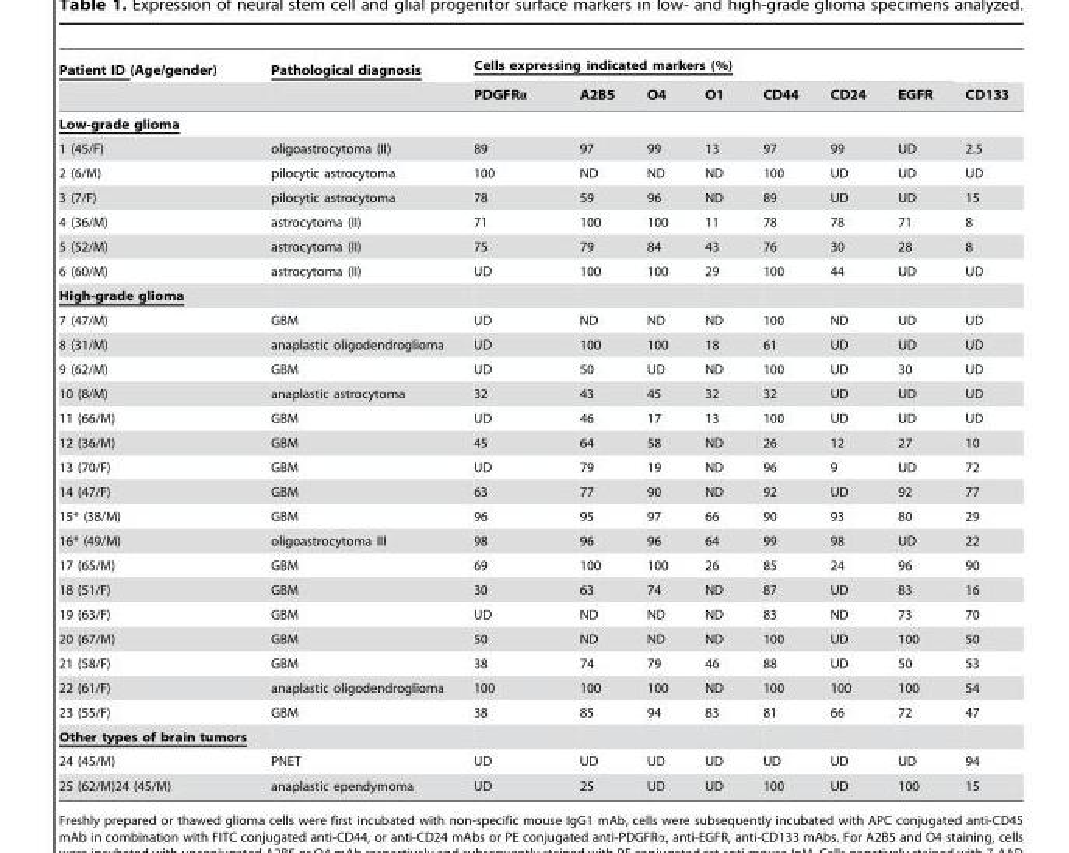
<table><thead><tr><td rowspan="2">Patient ID (Age/gender)</td><td rowspan="2">Pathological diagnosis</td><td colspan="7">Cells expressing indicated markers (%)</td><td rowspan="2">CD133</td></tr><tr><td>PDGFRα</td><td>A2B5</td><td>O4</td><td>O1</td><td>CD44</td><td>CD24</td><td>EGFR</td></tr></thead><tbody><tr><td colspan="10">Low-grade glioma</td></tr><tr><td>1 (45/F)</td><td>oligoastrocytoma (II)</td><td>89</td><td>97</td><td>99</td><td>13</td><td>97</td><td>99</td><td>UD</td><td>2.5</td></tr><tr><td>2 (6/M)</td><td>pilocytic astrocytoma</td><td>100</td><td>ND</td><td>ND</td><td>ND</td><td>100</td><td>UD</td><td>UD</td><td>UD</td></tr><tr><td>3 (7/F)</td><td>pilocytic astrocytoma</td><td>78</td><td>59</td><td>96</td><td>ND</td><td>89</td><td>UD</td><td>UD</td><td>15</td></tr><tr><td>4 (36/M)</td><td>astrocytoma (II)</td><td>71</td><td>100</td><td>100</td><td>11</td><td>78</td><td>78</td><td>71</td><td>8</td></tr><tr><td>5 (52/M)</td><td>astrocytoma (II)</td><td>75</td><td>79</td><td>84</td><td>43</td><td>76</td><td>30</td><td>28</td><td>8</td></tr><tr><td>6 (60/M)</td><td>astrocytoma (II)</td><td>UD</td><td>100</td><td>100</td><td>29</td><td>100</td><td>44</td><td>UD</td><td>UD</td></tr><tr><td colspan="10">High-grade glioma</td></tr><tr><td>7 (47/M)</td><td>GBM</td><td>UD</td><td>ND</td><td>ND</td><td>ND</td><td>100</td><td>ND</td><td>UD</td><td>UD</td></tr><tr><td>8 (31/M)</td><td>anaplastic oligodendroglioma</td><td>UD</td><td>100</td><td>100</td><td>18</td><td>61</td><td>UD</td><td>UD</td><td>UD</td></tr><tr><td>9 (62/M)</td><td>GBM</td><td>UD</td><td>50</td><td>UD</td><td>ND</td><td>100</td><td>UD</td><td>30</td><td>UD</td></tr><tr><td>10 (8/M)</td><td>anaplastic astrocytoma</td><td>32</td><td>43</td><td>45</td><td>32</td><td>32</td><td>UD</td><td>UD</td><td>UD</td></tr><tr><td>11 (66/M)</td><td>GBM</td><td>UD</td><td>46</td><td>17</td><td>13</td><td>100</td><td>UD</td><td>UD</td><td>UD</td></tr><tr><td>12 (36/M)</td><td>GBM</td><td>45</td><td>64</td><td>58</td><td>ND</td><td>26</td><td>12</td><td>27</td><td>10</td></tr><tr><td>13 (70/F)</td><td>GBM</td><td>UD</td><td>79</td><td>19</td><td>ND</td><td>96</td><td>9</td><td>UD</td><td>72</td></tr><tr><td>14 (47/F)</td><td>GBM</td><td>63</td><td>77</td><td>90</td><td>ND</td><td>92</td><td>UD</td><td>92</td><td>77</td></tr><tr><td>15* (38/M)</td><td>GBM</td><td>96</td><td>95</td><td>97</td><td>66</td><td>90</td><td>93</td><td>80</td><td>29</td></tr><tr><td>16* (49/M)</td><td>oligoastrocytoma III</td><td>98</td><td>96</td><td>96</td><td>64</td><td>99</td><td>98</td><td>UD</td><td>22</td></tr><tr><td>17 (65/M)</td><td>GBM</td><td>69</td><td>100</td><td>100</td><td>26</td><td>85</td><td>24</td><td>96</td><td>90</td></tr><tr><td>18 (51/F)</td><td>GBM</td><td>30</td><td>63</td><td>74</td><td>ND</td><td>87</td><td>UD</td><td>83</td><td>16</td></tr><tr><td>19 (63/F)</td><td>GBM</td><td>UD</td><td>ND</td><td>ND</td><td>ND</td><td>83</td><td>ND</td><td>73</td><td>70</td></tr><tr><td>20 (67/M)</td><td>GBM</td><td>50</td><td>ND</td><td>ND</td><td>ND</td><td>100</td><td>UD</td><td>100</td><td>50</td></tr><tr><td>21 (58/F)</td><td>GBM</td><td>38</td><td>74</td><td>79</td><td>46</td><td>88</td><td>UD</td><td>50</td><td>53</td></tr><tr><td>22 (61/F)</td><td>anaplastic oligodendroglioma</td><td>100</td><td>100</td><td>100</td><td>ND</td><td>100</td><td>100</td><td>100</td><td>54</td></tr><tr><td>23 (55/F)</td><td>GBM</td><td>38</td><td>85</td><td>94</td><td>83</td><td>81</td><td>66</td><td>72</td><td>47</td></tr><tr><td colspan="10">Other types of brain tumors</td></tr><tr><td>24 (45/M)</td><td>PNET</td><td>UD</td><td>UD</td><td>UD</td><td>UD</td><td>UD</td><td>UD</td><td>UD</td><td>94</td></tr><tr><td>25 (62/M)24 (45/M)</td><td>anaplastic ependymoma</td><td>UD</td><td>25</td><td>UD</td><td>UD</td><td>100</td><td>UD</td><td>100</td><td>15</td></tr></tbody></table>